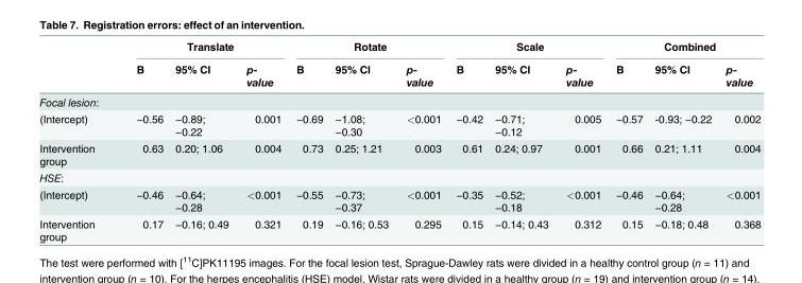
<table><thead><tr><td rowspan="2"></td><td colspan="3">Translate</td><td colspan="3">Rotate</td><td colspan="3">Scale</td><td colspan="3">Combined</td></tr><tr><td>B</td><td>95% CI</td><td>p- value</td><td>B</td><td>95% CI</td><td>p- value</td><td>B</td><td>95% CI</td><td>p- value</td><td>B</td><td>95% CI</td><td>p- value</td></tr></thead><tbody><tr><td colspan="13">Focal lesion:</td></tr><tr><td>(Intercept)</td><td>−0.56</td><td>−0.89; −0.22</td><td>0.001</td><td>−0.69</td><td>−1.08; −0.30</td><td>&lt;0.001</td><td>−0.42</td><td>−0.71; −0.12</td><td>0.005</td><td>−0.57</td><td>-0.93; −0.22</td><td>0.002</td></tr><tr><td>Intervention group</td><td>0.63</td><td>0.20; 1.06</td><td>0.004</td><td>0.73</td><td>0.25; 1.21</td><td>0.003</td><td>0.61</td><td>0.24; 0.97</td><td>0.001</td><td>0.66</td><td>0.21; 1.11</td><td>0.004</td></tr><tr><td colspan="13">HSE:</td></tr><tr><td>(Intercept)</td><td>−0.46</td><td>−0.64; −0.28</td><td>&lt;0.001</td><td>−0.55</td><td>−0.73; −0.37</td><td>&lt;0.001</td><td>−0.35</td><td>−0.52; −0.18</td><td>&lt;0.001</td><td>−0.46</td><td>−0.64; −0.28</td><td>&lt;0.001</td></tr><tr><td>Intervention group</td><td>0.17</td><td>−0.16; 0.49</td><td>0.321</td><td>0.19</td><td>−0.16; 0.53</td><td>0.295</td><td>0.15</td><td>−0.14; 0.43</td><td>0.312</td><td>0.15</td><td>−0.18; 0.48</td><td>0.368</td></tr></tbody></table>